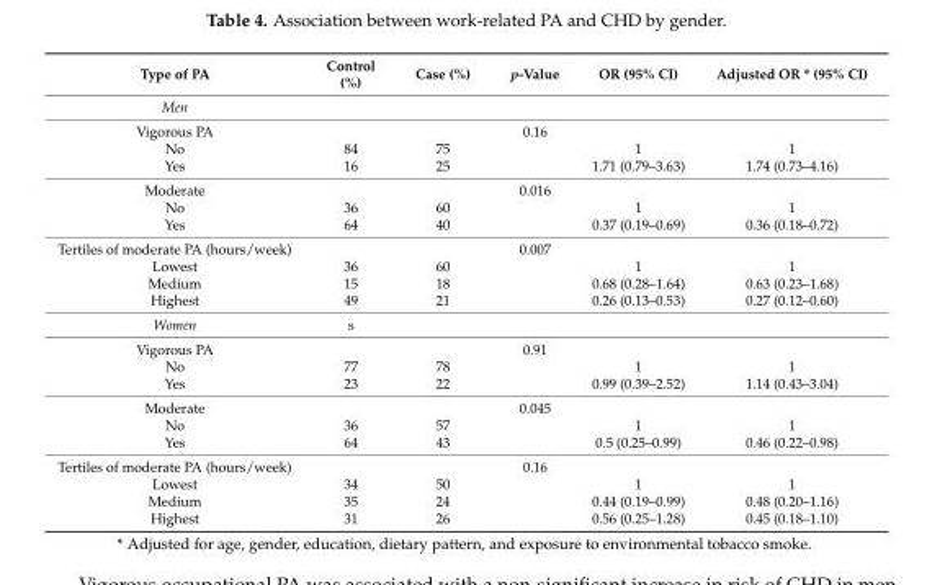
<table><thead><tr><td>Type of PA</td><td>Control (%)</td><td>Case (%)</td><td>p-Value</td><td>OR (95% CI)</td><td>Adjusted OR * (95% CI)</td></tr></thead><tbody><tr><td colspan="6">Men</td></tr><tr><td>Vigorous PA</td><td></td><td></td><td>0.16</td><td></td><td></td></tr><tr><td>No</td><td>84</td><td>75</td><td></td><td>1</td><td>1</td></tr><tr><td>Yes</td><td>16</td><td>25</td><td></td><td>1.71 (0.79–3.63)</td><td>1.74 (0.73–4.16)</td></tr><tr><td>Moderate</td><td></td><td></td><td>0.016</td><td></td><td></td></tr><tr><td>No</td><td>36</td><td>60</td><td></td><td>1</td><td>1</td></tr><tr><td>Yes</td><td>64</td><td>40</td><td></td><td>0.37 (0.19–0.69)</td><td>0.36 (0.18–0.72)</td></tr><tr><td>Tertiles of moderate PA (hours/week)</td><td></td><td></td><td>0.007</td><td></td><td></td></tr><tr><td>Lowest</td><td>36</td><td>60</td><td></td><td>1</td><td>1</td></tr><tr><td>Medium</td><td>15</td><td>18</td><td></td><td>0.68 (0.28–1.64)</td><td>0.63 (0.23–1.68)</td></tr><tr><td>Highest</td><td>49</td><td>21</td><td></td><td>0.26 (0.13–0.53)</td><td>0.27 (0.12–0.60)</td></tr><tr><td>Women</td><td>s</td><td></td><td></td><td></td><td></td></tr><tr><td>Vigorous PA</td><td></td><td></td><td>0.91</td><td></td><td></td></tr><tr><td>No</td><td>77</td><td>78</td><td></td><td>1</td><td>1</td></tr><tr><td>Yes</td><td>23</td><td>22</td><td></td><td>0.99 (0.39–2.52)</td><td>1.14 (0.43–3.04)</td></tr><tr><td>Moderate</td><td></td><td></td><td>0.045</td><td></td><td></td></tr><tr><td>No</td><td>36</td><td>57</td><td></td><td>1</td><td>1</td></tr><tr><td>Yes</td><td>64</td><td>43</td><td></td><td>0.5 (0.25–0.99)</td><td>0.46 (0.22–0.98)</td></tr><tr><td>Tertiles of moderate PA (hours/week)</td><td></td><td></td><td>0.16</td><td></td><td></td></tr><tr><td>Lowest</td><td>34</td><td>50</td><td></td><td>1</td><td>1</td></tr><tr><td>Medium</td><td>35</td><td>24</td><td></td><td>0.44 (0.19–0.99)</td><td>0.48 (0.20–1.16)</td></tr><tr><td>Highest</td><td>31</td><td>26</td><td></td><td>0.56 (0.25–1.28)</td><td>0.45 (0.18–1.10)</td></tr></tbody></table>